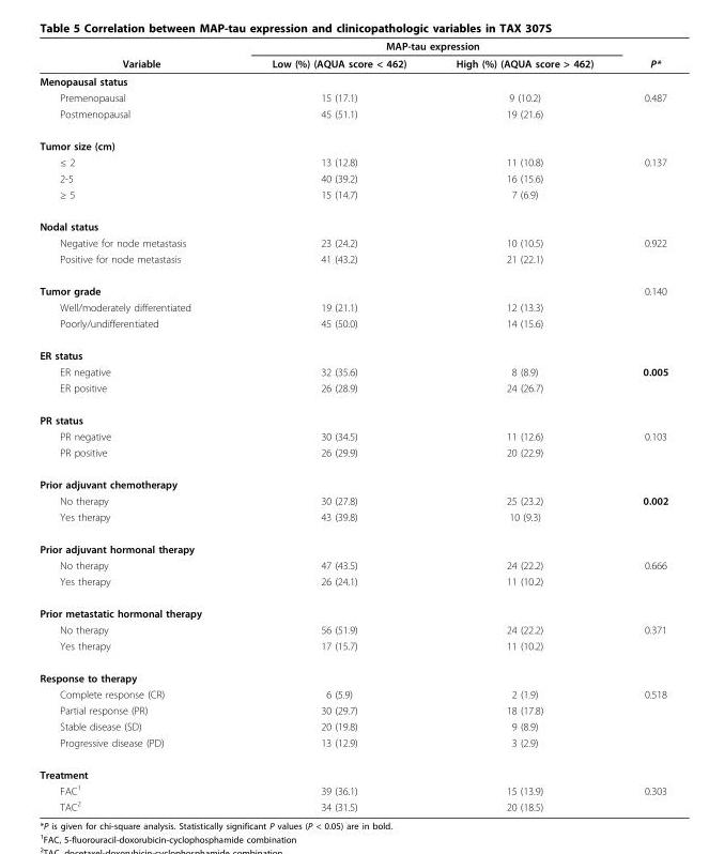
<table><thead><tr><td rowspan="2">Variable</td><td colspan="2">MAP-tau expression</td><td rowspan="2">P*</td></tr><tr><td>Low (%) (AQUA score &lt; 462)</td><td>High (%) (AQUA score &gt; 462)</td></tr></thead><tbody><tr><td colspan="4">Menopausal status</td></tr><tr><td>Premenopausal</td><td>15 (17.1)</td><td>9 (10.2)</td><td>0.487</td></tr><tr><td>Postmenopausal</td><td>45 (51.1)</td><td>19 (21.6)</td><td></td></tr><tr><td colspan="4">Tumor size (cm)</td></tr><tr><td>≤ 2</td><td>13 (12.8)</td><td>11 (10.8)</td><td>0.137</td></tr><tr><td>2-5</td><td>40 (39.2)</td><td>16 (15.6)</td><td></td></tr><tr><td>≥ 5</td><td>15 (14.7)</td><td>7 (6.9)</td><td></td></tr><tr><td colspan="4">Nodal status</td></tr><tr><td>Negative for node metastasis</td><td>23 (24.2)</td><td>10 (10.5)</td><td>0.922</td></tr><tr><td>Positive for node metastasis</td><td>41 (43.2)</td><td>21 (22.1)</td><td></td></tr><tr><td>Tumor grade</td><td></td><td></td><td>0.140</td></tr><tr><td>Well/moderately differentiated</td><td>19 (21.1)</td><td>12 (13.3)</td><td></td></tr><tr><td>Poorly/undifferentiated</td><td>45 (50.0)</td><td>14 (15.6)</td><td></td></tr><tr><td colspan="4">ER status</td></tr><tr><td>ER negative</td><td>32 (35.6)</td><td>8 (8.9)</td><td>0.005</td></tr><tr><td>ER positive</td><td>26 (28.9)</td><td>24 (26.7)</td><td></td></tr><tr><td colspan="4">PR status</td></tr><tr><td>PR negative</td><td>30 (34.5)</td><td>11 (12.6)</td><td>0.103</td></tr><tr><td>PR positive</td><td>26 (29.9)</td><td>20 (22.9)</td><td></td></tr><tr><td colspan="4">Prior adjuvant chemotherapy</td></tr><tr><td>No therapy</td><td>30 (27.8)</td><td>25 (23.2)</td><td>0.002</td></tr><tr><td>Yes therapy</td><td>43 (39.8)</td><td>10 (9.3)</td><td></td></tr><tr><td colspan="4">Prior adjuvant hormonal therapy</td></tr><tr><td>No therapy</td><td>47 (43.5)</td><td>24 (22.2)</td><td>0.666</td></tr><tr><td>Yes therapy</td><td>26 (24.1)</td><td>11 (10.2)</td><td></td></tr><tr><td colspan="4">Prior metastatic hormonal therapy</td></tr><tr><td>No therapy</td><td>56 (51.9)</td><td>24 (22.2)</td><td>0.371</td></tr><tr><td>Yes therapy</td><td>17 (15.7)</td><td>11 (10.2)</td><td></td></tr><tr><td colspan="4">Response to therapy</td></tr><tr><td>Complete response (CR)</td><td>6 (5.9)</td><td>2 (1.9)</td><td>0.518</td></tr><tr><td>Partial response (PR)</td><td>30 (29.7)</td><td>18 (17.8)</td><td></td></tr><tr><td>Stable disease (SD)</td><td>20 (19.8)</td><td>9 (8.9)</td><td></td></tr><tr><td>Progressive disease (PD)</td><td>13 (12.9)</td><td>3 (2.9)</td><td></td></tr><tr><td colspan="4">Treatment</td></tr><tr><td>FAC<sup>1</sup></td><td>39 (36.1)</td><td>15 (13.9)</td><td>0.303</td></tr><tr><td>TAC<sup>2</sup></td><td>34 (31.5)</td><td>20 (18.5)</td><td></td></tr></tbody></table>